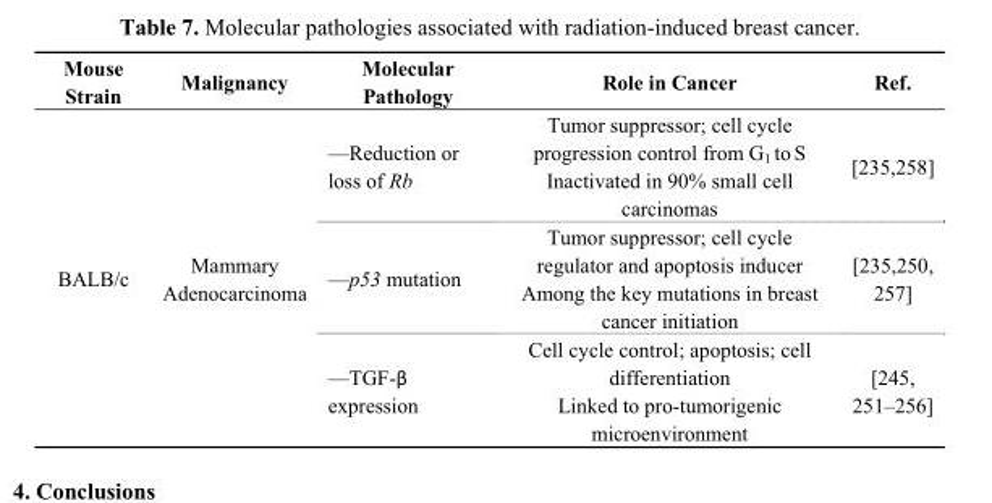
<table><thead><tr><td>Mouse Strain</td><td>Malignancy</td><td>Molecular Pathology</td><td>Role in Cancer</td><td>Ref.</td></tr></thead><tbody><tr><td rowspan="3">BALB/c</td><td rowspan="3">Mammary Adenocarcinoma</td><td>—Reduction or loss of Rb</td><td>Tumor suppressor; cell cycle progression control from G<sub>1</sub> to S Inactivated in 90% small cell carcinomas</td><td>[235,258]</td></tr><tr><td>—p53 mutation</td><td>Tumor suppressor; cell cycle regulator and apoptosis inducer Among the key mutations in breast cancer initiation</td><td>[235,250, 257]</td></tr><tr><td>—TGF-β expression</td><td>Cell cycle control; apoptosis; cell differentiation Linked to pro-tumorigenic microenvironment</td><td>[245, 251–256]</td></tr></tbody></table>